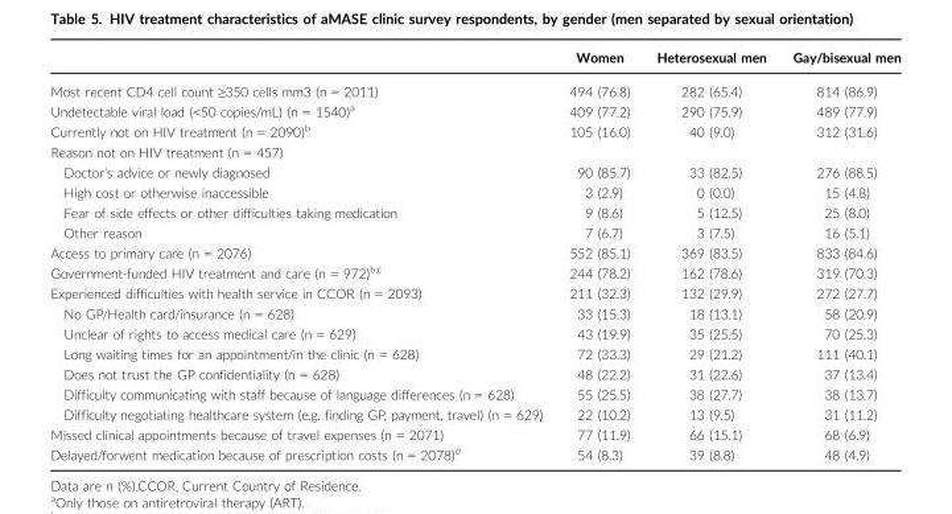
<table><thead><tr><td></td><td>Women</td><td>Heterosexual men</td><td>Gay/bisexual men</td></tr></thead><tbody><tr><td>Most recent CD4 cell count ≥350 cells mm3 (n = 2011)</td><td>494 (76.8)</td><td>282 (65.4)</td><td>814 (86.9)</td></tr><tr><td>Undetectable viral load (&lt;50 copies/mL) (n = 1540)<sup>a</sup></td><td>409 (77.2)</td><td>290 (75.9)</td><td>489 (77.9)</td></tr><tr><td>Currently not on HIV treatment (n = 2090)<sup>b</sup></td><td>105 (16.0)</td><td>40 (9.0)</td><td>312 (31.6)</td></tr><tr><td colspan="4">Reason not on HIV treatment (n = 457)</td></tr><tr><td>Doctor’s advice or newly diagnosed</td><td>90 (85.7)</td><td>33 (82.5)</td><td>276 (88.5)</td></tr><tr><td>High cost or otherwise inaccessible</td><td>3 (2.9)</td><td>0 (0.0)</td><td>15 (4.8)</td></tr><tr><td>Fear of side effects or other difficulties taking medication</td><td>9 (8.6)</td><td>5 (12.5)</td><td>25 (8.0)</td></tr><tr><td>Other reason</td><td>7 (6.7)</td><td>3 (7.5)</td><td>16 (5.1)</td></tr><tr><td>Access to primary care (n = 2076)</td><td>552 (85.1)</td><td>369 (83.5)</td><td>833 (84.6)</td></tr><tr><td>Government-funded HIV treatment and care (n = 972)<sup>b,</sup>c</td><td>244 (78.2)</td><td>162 (78.6)</td><td>319 (70.3)</td></tr><tr><td>Experienced difficulties with health service in CCOR (n = 2093)</td><td>211 (32.3)</td><td>132 (29.9)</td><td>272 (27.7)</td></tr><tr><td>No GP/Health card/insurance (n = 628)</td><td>33 (15.3)</td><td>18 (13.1)</td><td>58 (20.9)</td></tr><tr><td>Unclear of rights to access medical care (n = 629)</td><td>43 (19.9)</td><td>35 (25.5)</td><td>70 (25.3)</td></tr><tr><td>Long waiting times for an appointment/in the clinic (n = 628)</td><td>72 (33.3)</td><td>29 (21.2)</td><td>111 (40.1)</td></tr><tr><td>Does not trust the GP confidentiality (n = 628)</td><td>48 (22.2)</td><td>31 (22.6)</td><td>37 (13.4)</td></tr><tr><td>Difficulty communicating with staff because of language differences (n = 628)</td><td>55 (25.5)</td><td>38 (27.7)</td><td>38 (13.7)</td></tr><tr><td>Difficulty negotiating healthcare system (e.g. finding GP, payment, travel) (n = 629)</td><td>22 (10.2)</td><td>13 (9.5)</td><td>31 (11.2)</td></tr><tr><td>Missed clinical appointments because of travel expenses (n = 2071)</td><td>77 (11.9)</td><td>66 (15.1)</td><td>68 (6.9)</td></tr><tr><td>Delayed/forwent medication because of prescription costs (n = 2078)<sup>d</sup></td><td>54 (8.3)</td><td>39 (8.8)</td><td>48 (4.9)</td></tr></tbody></table>